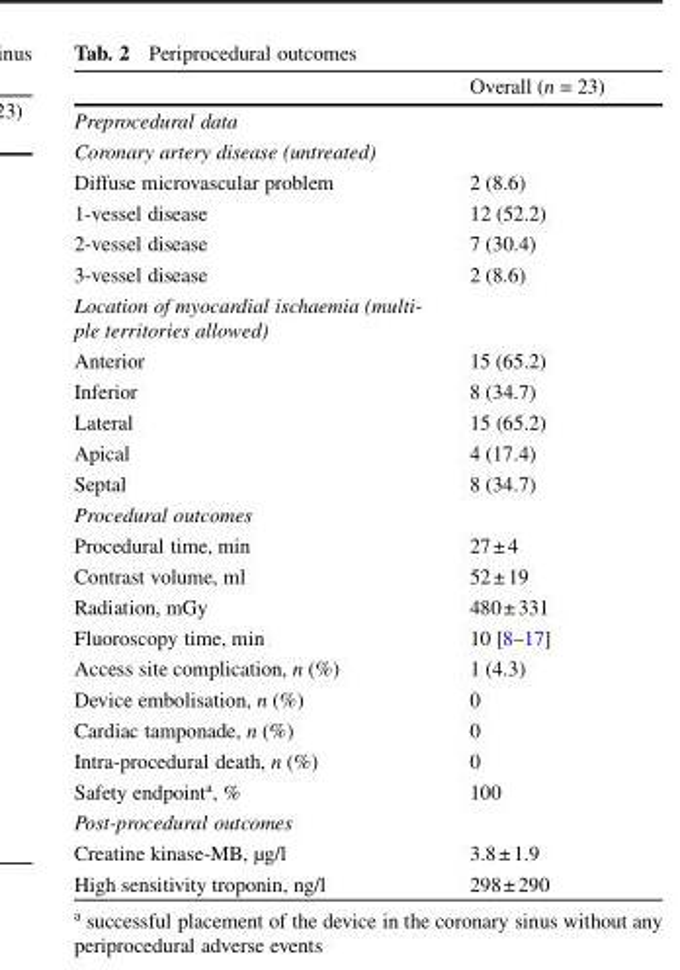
<table><thead><tr><td></td><td>Overall (n = 23)</td></tr></thead><tbody><tr><td colspan="2">Preprocedural data</td></tr><tr><td colspan="2">Coronary artery disease (untreated)</td></tr><tr><td>Diffuse microvascular problem</td><td>2 (8.6)</td></tr><tr><td>1-vessel disease</td><td>12 (52.2)</td></tr><tr><td>2-vessel disease</td><td>7 (30.4)</td></tr><tr><td>3-vessel disease</td><td>2 (8.6)</td></tr><tr><td colspan="2">Location of myocardial ischaemia (multi- ple territories allowed)</td></tr><tr><td>Anterior</td><td>15 (65.2)</td></tr><tr><td>Inferior</td><td>8 (34.7)</td></tr><tr><td>Lateral</td><td>15 (65.2)</td></tr><tr><td>Apical</td><td>4 (17.4)</td></tr><tr><td>Septal</td><td>8 (34.7)</td></tr><tr><td colspan="2">Procedural outcomes</td></tr><tr><td>Procedural time, min</td><td>27±4</td></tr><tr><td>Contrast volume, ml</td><td>52±19</td></tr><tr><td>Radiation, mGy</td><td>480±331</td></tr><tr><td>Fluoroscopy time, min</td><td>10 [8–17]</td></tr><tr><td>Access site complication, n (%)</td><td>1 (4.3)</td></tr><tr><td>Device embolisation, n (%)</td><td>0</td></tr><tr><td>Cardiac tamponade, n (%)</td><td>0</td></tr><tr><td>Intra-procedural death, n (%)</td><td>0</td></tr><tr><td>Safety endpoint<sup>a</sup>, %</td><td>100</td></tr><tr><td colspan="2">Post-procedural outcomes</td></tr><tr><td>Creatine kinase-MB, µg/l</td><td>3.8±1.9</td></tr><tr><td>High sensitivity troponin, ng/l</td><td>298±290</td></tr></tbody></table>